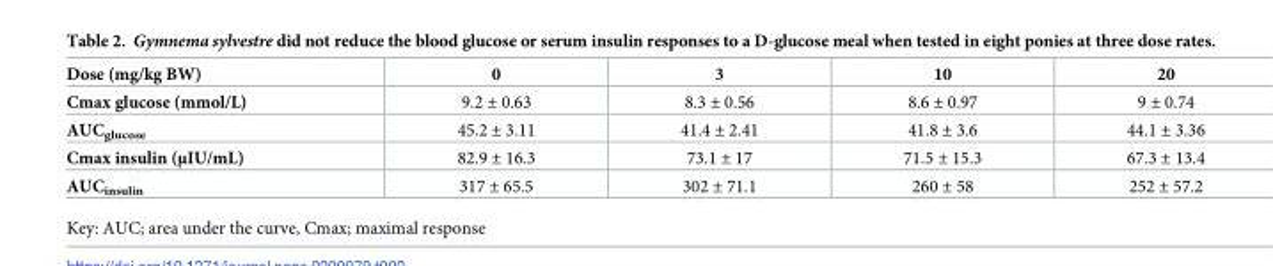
<table><thead><tr><td>Dose (mg/kg BW)</td><td>0</td><td>3</td><td>10</td><td>20</td></tr></thead><tbody><tr><td>Cmax glucose (mmol/L)</td><td>9.2 ± 0.63</td><td>8.3 ± 0.56</td><td>8.6 ± 0.97</td><td>9 ± 0.74</td></tr><tr><td>AUC<sub>glucose</sub></td><td>45.2 ± 3.11</td><td>41.4 ± 2.41</td><td>41.8 ± 3.6</td><td>44.1 ± 3.36</td></tr><tr><td>Cmax insulin (μIU/mL)</td><td>82.9 ± 16.3</td><td>73.1 ± 17</td><td>71.5 ± 15.3</td><td>67.3 ± 13.4</td></tr><tr><td>AUC<sub>insulin</sub></td><td>317 ± 65.5</td><td>302 ± 71.1</td><td>260 ± 58</td><td>252 ± 57.2</td></tr></tbody></table>